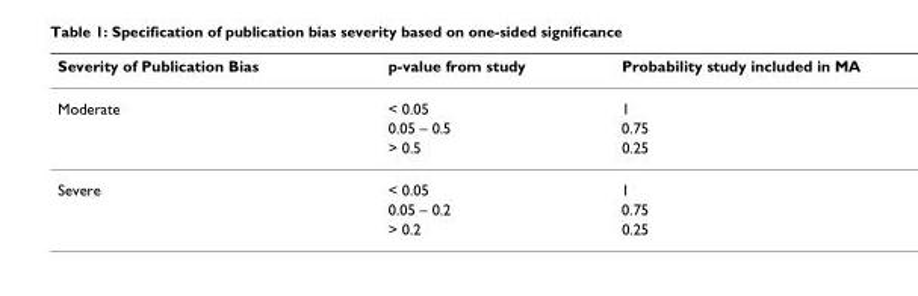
<table><thead><tr><td>Severity of Publication Bias</td><td>p-value from study</td><td>Probability study included in MA</td></tr></thead><tbody><tr><td rowspan="3">Moderate</td><td>&lt; 0.05</td><td>1</td></tr><tr><td>0.05 – 0.5</td><td>0.75</td></tr><tr><td>&gt; 0.5</td><td>0.25</td></tr><tr><td rowspan="3">Severe</td><td>&lt; 0.05</td><td>1</td></tr><tr><td>0.05 – 0.2</td><td>0.75</td></tr><tr><td>&gt; 0.2</td><td>0.25</td></tr></tbody></table>